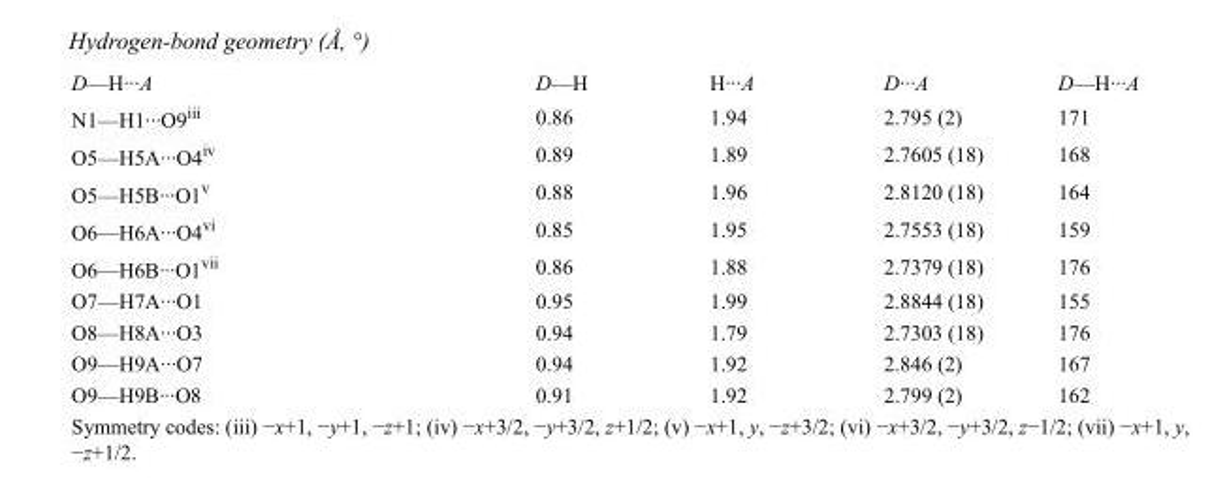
<table><tbody><tr><td>D—H···A</td><td>D—H</td><td>H···A</td><td>D···A</td><td>D—H···A</td></tr><tr><td>N1—H1···O9<sup>iii</sup></td><td>0.86</td><td>1.94</td><td>2.795 (2)</td><td>171</td></tr><tr><td>O5—H5A···O4<sup>iv</sup></td><td>0.89</td><td>1.89</td><td>2.7605 (18)</td><td>168</td></tr><tr><td>O5—H5B···O1<sup>v</sup></td><td>0.88</td><td>1.96</td><td>2.8120 (18)</td><td>164</td></tr><tr><td>O6—H6A···O4<sup>vi</sup></td><td>0.85</td><td>1.95</td><td>2.7553 (18)</td><td>159</td></tr><tr><td>O6—H6B···O1<sup>vii</sup></td><td>0.86</td><td>1.88</td><td>2.7379 (18)</td><td>176</td></tr><tr><td>O7—H7A···O1</td><td>0.95</td><td>1.99</td><td>2.8844 (18)</td><td>155</td></tr><tr><td>O8—H8A···O3</td><td>0.94</td><td>1.79</td><td>2.7303 (18)</td><td>176</td></tr><tr><td>O9—H9A···O7</td><td>0.94</td><td>1.92</td><td>2.846 (2)</td><td>167</td></tr><tr><td>O9—H9B···O8</td><td>0.91</td><td>1.92</td><td>2.799 (2)</td><td>162</td></tr></tbody></table>